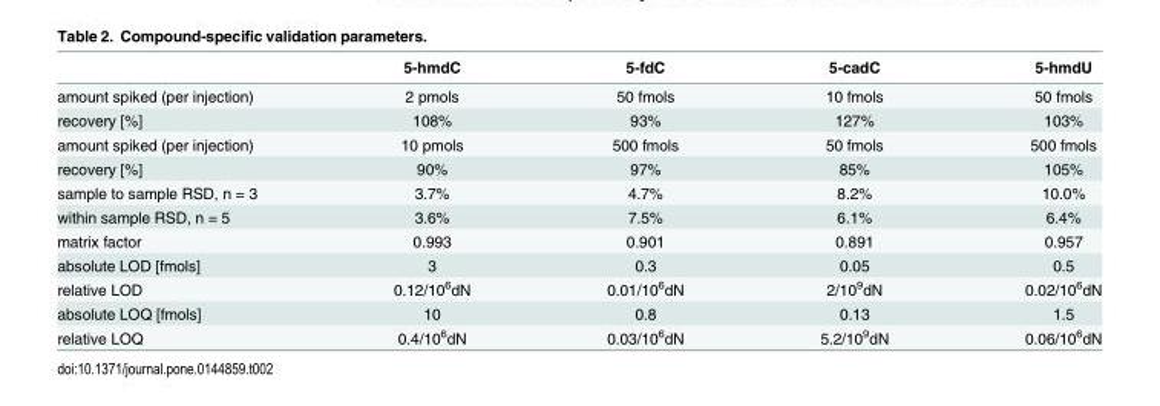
<table><thead><tr><td></td><td>5-hmdC</td><td>5-fdC</td><td>5-cadC</td><td>5-hmdU</td></tr></thead><tbody><tr><td>amount spiked (per injection)</td><td>2 pmols</td><td>50 fmols</td><td>10 fmols</td><td>50 fmols</td></tr><tr><td>recovery [%]</td><td>108%</td><td>93%</td><td>127%</td><td>103%</td></tr><tr><td>amount spiked (per injection)</td><td>10 pmols</td><td>500 fmols</td><td>50 fmols</td><td>500 fmols</td></tr><tr><td>recovery [%]</td><td>90%</td><td>97%</td><td>85%</td><td>105%</td></tr><tr><td>sample to sample RSD, n = 3</td><td>3.7%</td><td>4.7%</td><td>8.2%</td><td>10.0%</td></tr><tr><td>within sample RSD, n = 5</td><td>3.6%</td><td>7.5%</td><td>6.1%</td><td>6.4%</td></tr><tr><td>matrix factor</td><td>0.993</td><td>0.901</td><td>0.891</td><td>0.957</td></tr><tr><td>absolute LOD [fmols]</td><td>3</td><td>0.3</td><td>0.05</td><td>0.5</td></tr><tr><td>relative LOD</td><td>0.12/10<sup>6</sup>dN</td><td>0.01/10<sup>6</sup>dN</td><td>2/10<sup>9</sup>dN</td><td>0.02/10<sup>6</sup>dN</td></tr><tr><td>absolute LOQ [fmols]</td><td>10</td><td>0.8</td><td>0.13</td><td>1.5</td></tr><tr><td>relative LOQ</td><td>0.4/10<sup>6</sup>dN</td><td>0.03/10<sup>6</sup>dN</td><td>5.2/10<sup>9</sup>dN</td><td>0.06/10<sup>6</sup>dN</td></tr></tbody></table>